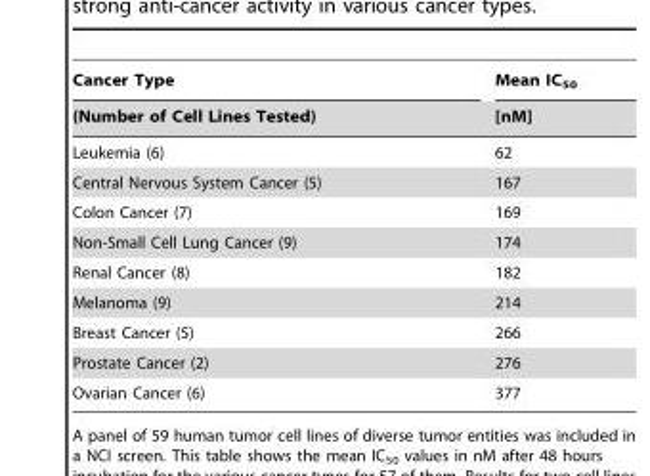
<table><thead><tr><td rowspan="2">Cancer Type (Number of Cell Lines Tested)</td><td rowspan="2">Mean IC<sub>50</sub> [nM]</td></tr><tr></tr></thead><tbody><tr><td>Leukemia (6)</td><td>62</td></tr><tr><td>Central Nervous System Cancer (5)</td><td>167</td></tr><tr><td>Colon Cancer (7)</td><td>169</td></tr><tr><td>Non-Small Cell Lung Cancer (9)</td><td>174</td></tr><tr><td>Renal Cancer (8)</td><td>182</td></tr><tr><td>Melanoma (9)</td><td>214</td></tr><tr><td>Breast Cancer (5)</td><td>266</td></tr><tr><td>Prostate Cancer (2)</td><td>276</td></tr><tr><td>Ovarian Cancer (6)</td><td>377</td></tr></tbody></table>